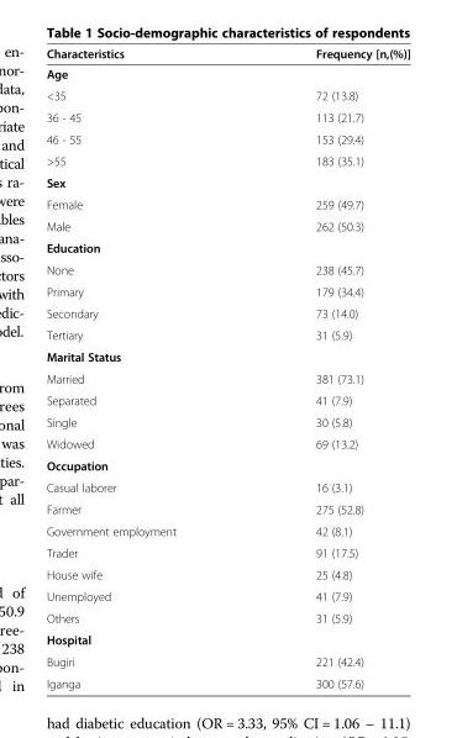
<table><thead><tr><td>Characteristics</td><td>Frequency [n,(%)]</td></tr></thead><tbody><tr><td colspan="2">Age</td></tr><tr><td>&lt;35</td><td>72 (13.8)</td></tr><tr><td>36 - 45</td><td>113 (21.7)</td></tr><tr><td>46 - 55</td><td>153 (29.4)</td></tr><tr><td>&gt;55</td><td>183 (35.1)</td></tr><tr><td colspan="2">Sex</td></tr><tr><td>Female</td><td>259 (49.7)</td></tr><tr><td>Male</td><td>262 (50.3)</td></tr><tr><td colspan="2">Education</td></tr><tr><td>None</td><td>238 (45.7)</td></tr><tr><td>Primary</td><td>179 (34.4)</td></tr><tr><td>Secondary</td><td>73 (14.0)</td></tr><tr><td>Tertiary</td><td>31 (5.9)</td></tr><tr><td colspan="2">Marital Status</td></tr><tr><td>Married</td><td>381 (73.1)</td></tr><tr><td>Separated</td><td>41 (7.9)</td></tr><tr><td>Single</td><td>30 (5.8)</td></tr><tr><td>Widowed</td><td>69 (13.2)</td></tr><tr><td colspan="2">Occupation</td></tr><tr><td>Casual laborer</td><td>16 (3.1)</td></tr><tr><td>Farmer</td><td>275 (52.8)</td></tr><tr><td>Government employment</td><td>42 (8.1)</td></tr><tr><td>Trader</td><td>91 (17.5)</td></tr><tr><td>House wife</td><td>25 (4.8)</td></tr><tr><td>Unemployed</td><td>41 (7.9)</td></tr><tr><td>Others</td><td>31 (5.9)</td></tr><tr><td colspan="2">Hospital</td></tr><tr><td>Bugiri</td><td>221 (42.4)</td></tr><tr><td>Iganga</td><td>300 (57.6)</td></tr></tbody></table>